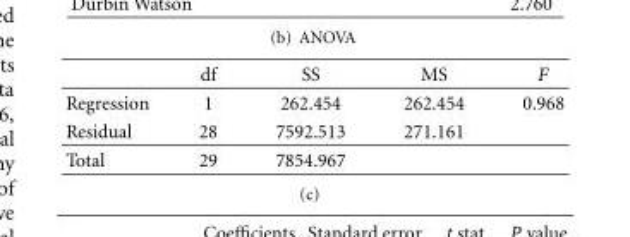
<table><thead><tr><td></td><td>df</td><td>SS</td><td>MS</td><td>F</td></tr></thead><tbody><tr><td>Regression</td><td>1</td><td>262.454</td><td>262.454</td><td>0.968</td></tr><tr><td>Residual</td><td>28</td><td>7592.513</td><td>271.161</td><td></td></tr><tr><td>Total</td><td>29</td><td>7854.967</td><td></td><td></td></tr></tbody></table>